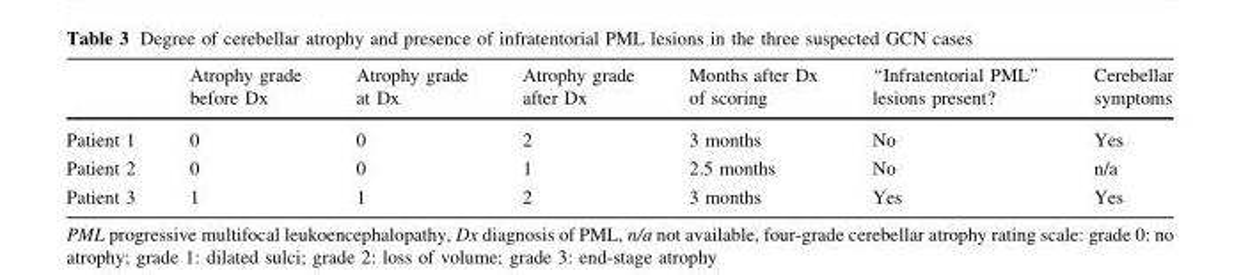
<table><thead><tr><td></td><td>Atrophy grade before Dx</td><td>Atrophy grade at Dx</td><td>Atrophy grade after Dx</td><td>Months after Dx of scoring</td><td>‘‘Infratentorial PML’’ lesions present?</td><td>Cerebellar symptoms</td></tr></thead><tbody><tr><td>Patient 1</td><td>0</td><td>0</td><td>2</td><td>3 months</td><td>No</td><td>Yes</td></tr><tr><td>Patient 2</td><td>0</td><td>0</td><td>1</td><td>2.5 months</td><td>No</td><td>n/a</td></tr><tr><td>Patient 3</td><td>1</td><td>1</td><td>2</td><td>3 months</td><td>Yes</td><td>Yes</td></tr></tbody></table>